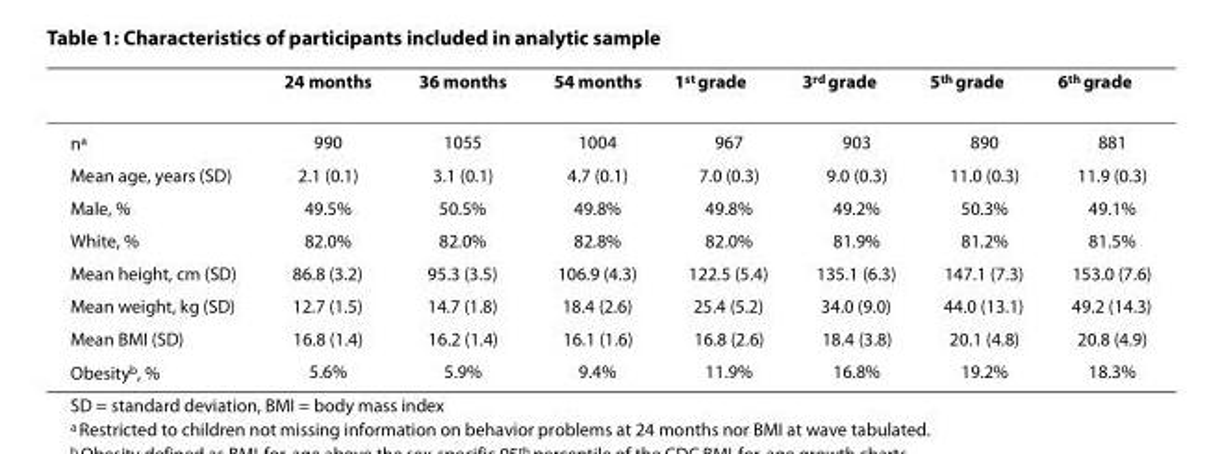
<table><thead><tr><td></td><td>24 months</td><td>36 months</td><td>54 months</td><td>1<sup>st</sup> grade</td><td>3<sup>rd</sup> grade</td><td>5<sup>th</sup> grade</td><td>6<sup>th</sup> grade</td></tr></thead><tbody><tr><td>n<sup>a</sup></td><td>990</td><td>1055</td><td>1004</td><td>967</td><td>903</td><td>890</td><td>881</td></tr><tr><td>Mean age, years (SD)</td><td>2.1 (0.1)</td><td>3.1 (0.1)</td><td>4.7 (0.1)</td><td>7.0 (0.3)</td><td>9.0 (0.3)</td><td>11.0 (0.3)</td><td>11.9 (0.3)</td></tr><tr><td>Male, %</td><td>49.5%</td><td>50.5%</td><td>49.8%</td><td>49.8%</td><td>49.2%</td><td>50.3%</td><td>49.1%</td></tr><tr><td>White, %</td><td>82.0%</td><td>82.0%</td><td>82.8%</td><td>82.0%</td><td>81.9%</td><td>81.2%</td><td>81.5%</td></tr><tr><td>Mean height, cm (SD)</td><td>86.8 (3.2)</td><td>95.3 (3.5)</td><td>106.9 (4.3)</td><td>122.5 (5.4)</td><td>135.1 (6.3)</td><td>147.1 (7.3)</td><td>153.0 (7.6)</td></tr><tr><td>Mean weight, kg (SD)</td><td>12.7 (1.5)</td><td>14.7 (1.8)</td><td>18.4 (2.6)</td><td>25.4 (5.2)</td><td>34.0 (9.0)</td><td>44.0 (13.1)</td><td>49.2 (14.3)</td></tr><tr><td>Mean BMI (SD)</td><td>16.8 (1.4)</td><td>16.2 (1.4)</td><td>16.1 (1.6)</td><td>16.8 (2.6)</td><td>18.4 (3.8)</td><td>20.1 (4.8)</td><td>20.8 (4.9)</td></tr><tr><td>Obesity<sup>b</sup>, %</td><td>5.6%</td><td>5.9%</td><td>9.4%</td><td>11.9%</td><td>16.8%</td><td>19.2%</td><td>18.3%</td></tr></tbody></table>